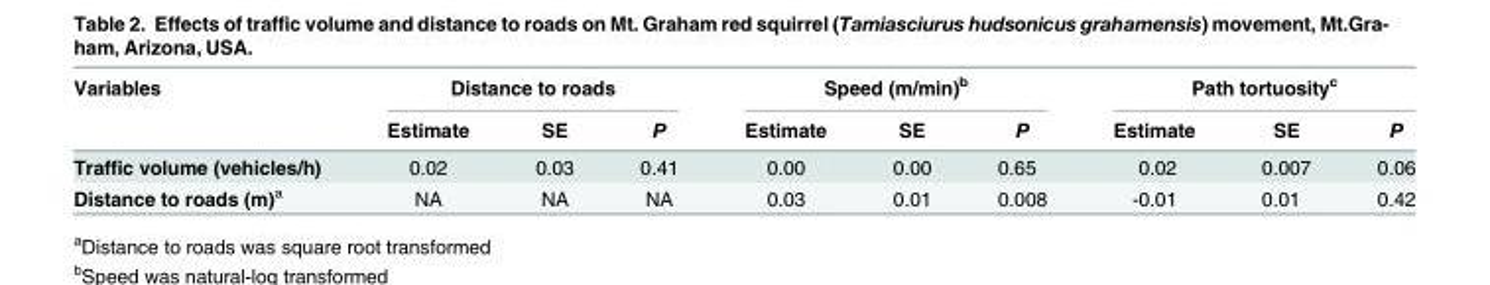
<table><thead><tr><td rowspan="2">Variables</td><td colspan="3">Distance to roads</td><td colspan="3">Speed (m/min)<sup>b</sup></td><td colspan="3">Path tortuosity<sup>c</sup></td></tr><tr><td>Estimate</td><td>SE</td><td>P</td><td>Estimate</td><td>SE</td><td>P</td><td>Estimate</td><td>SE</td><td>P</td></tr></thead><tbody><tr><td>Traffic volume (vehicles/h)</td><td>0.02</td><td>0.03</td><td>0.41</td><td>0.00</td><td>0.00</td><td>0.65</td><td>0.02</td><td>0.007</td><td>0.06</td></tr><tr><td>Distance to roads (m)<sup>a</sup></td><td>NA</td><td>NA</td><td>NA</td><td>0.03</td><td>0.01</td><td>0.008</td><td>-0.01</td><td>0.01</td><td>0.42</td></tr></tbody></table>